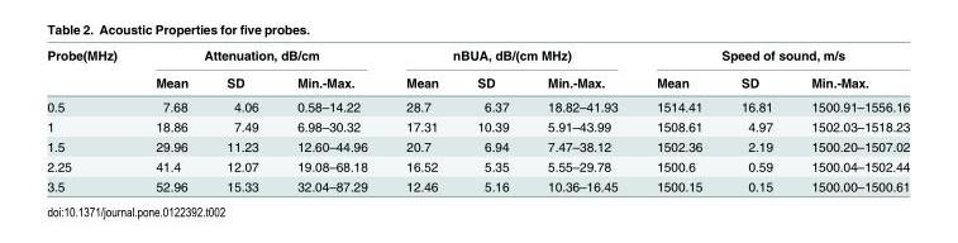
<table><thead><tr><td rowspan="2">Probe(MHz)</td><td colspan="3">Attenuation, dB/cm</td><td colspan="3">nBUA, dB/(cm MHz)</td><td colspan="3">Speed of sound, m/s</td></tr><tr><td>Mean</td><td>SD</td><td>Min.-Max.</td><td>Mean</td><td>SD</td><td>Min.-Max.</td><td>Mean</td><td>SD</td><td>Min.-Max.</td></tr></thead><tbody><tr><td>0.5</td><td>7.68</td><td>4.06</td><td>0.58–14.22</td><td>28.7</td><td>6.37</td><td>18.82–41.93</td><td>1514.41</td><td>16.81</td><td>1500.91–1556.16</td></tr><tr><td>1</td><td>18.86</td><td>7.49</td><td>6.98–30.32</td><td>17.31</td><td>10.39</td><td>5.91–43.99</td><td>1508.61</td><td>4.97</td><td>1502.03–1518.23</td></tr><tr><td>1.5</td><td>29.96</td><td>11.23</td><td>12.60–44.96</td><td>20.7</td><td>6.94</td><td>7.47–38.12</td><td>1502.36</td><td>2.19</td><td>1500.20–1507.02</td></tr><tr><td>2.25</td><td>41.4</td><td>12.07</td><td>19.08–68.18</td><td>16.52</td><td>5.35</td><td>5.55–29.78</td><td>1500.6</td><td>0.59</td><td>1500.04–1502.44</td></tr><tr><td>3.5</td><td>52.96</td><td>15.33</td><td>32.04–87.29</td><td>12.46</td><td>5.16</td><td>10.36–16.45</td><td>1500.15</td><td>0.15</td><td>1500.00–1500.61</td></tr></tbody></table>